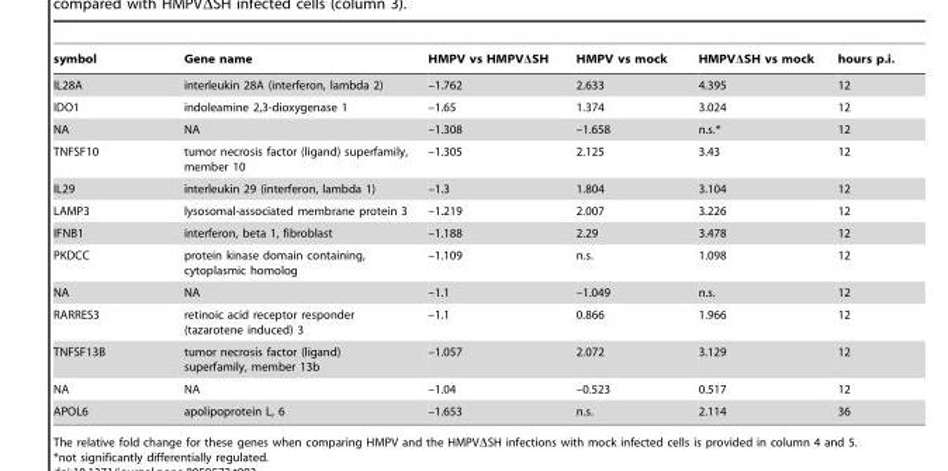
<table><thead><tr><td>symbol</td><td>Gene name</td><td>HMPV vs HMPVΔSH</td><td>HMPV vs mock</td><td>HMPVΔSH vs mock</td><td>hours p.i.</td></tr></thead><tbody><tr><td>IL28A</td><td>interleukin 28A (interferon, lambda 2)</td><td>–1.762</td><td>2.633</td><td>4.395</td><td>12</td></tr><tr><td>IDO1</td><td>indoleamine 2,3-dioxygenase 1</td><td>–1.65</td><td>1.374</td><td>3.024</td><td>12</td></tr><tr><td>NA</td><td>NA</td><td>–1.308</td><td>–1.658</td><td>n.s.*</td><td>12</td></tr><tr><td>TNFSF10</td><td>tumor necrosis factor (ligand) superfamily, member 10</td><td>–1.305</td><td>2.125</td><td>3.43</td><td>12</td></tr><tr><td>IL29</td><td>interleukin 29 (interferon, lambda 1)</td><td>–1.3</td><td>1.804</td><td>3.104</td><td>12</td></tr><tr><td>LAMP3</td><td>lysosomal-associated membrane protein 3</td><td>–1.219</td><td>2.007</td><td>3.226</td><td>12</td></tr><tr><td>IFNB1</td><td>interferon, beta 1, fibroblast</td><td>–1.188</td><td>2.29</td><td>3.478</td><td>12</td></tr><tr><td>PKDCC</td><td>protein kinase domain containing, cytoplasmic homolog</td><td>–1.109</td><td>n.s.</td><td>1.098</td><td>12</td></tr><tr><td>NA</td><td>NA</td><td>–1.1</td><td>–1.049</td><td>n.s.</td><td>12</td></tr><tr><td>RARRES3</td><td>retinoic acid receptor responder (tazarotene induced) 3</td><td>–1.1</td><td>0.866</td><td>1.966</td><td>12</td></tr><tr><td>TNFSF13B</td><td>tumor necrosis factor (ligand) superfamily, member 13b</td><td>–1.057</td><td>2.072</td><td>3.129</td><td>12</td></tr><tr><td>NA</td><td>NA</td><td>–1.04</td><td>–0.523</td><td>0.517</td><td>12</td></tr><tr><td>APOL6</td><td>apolipoprotein L, 6</td><td>–1.653</td><td>n.s.</td><td>2.114</td><td>36</td></tr></tbody></table>